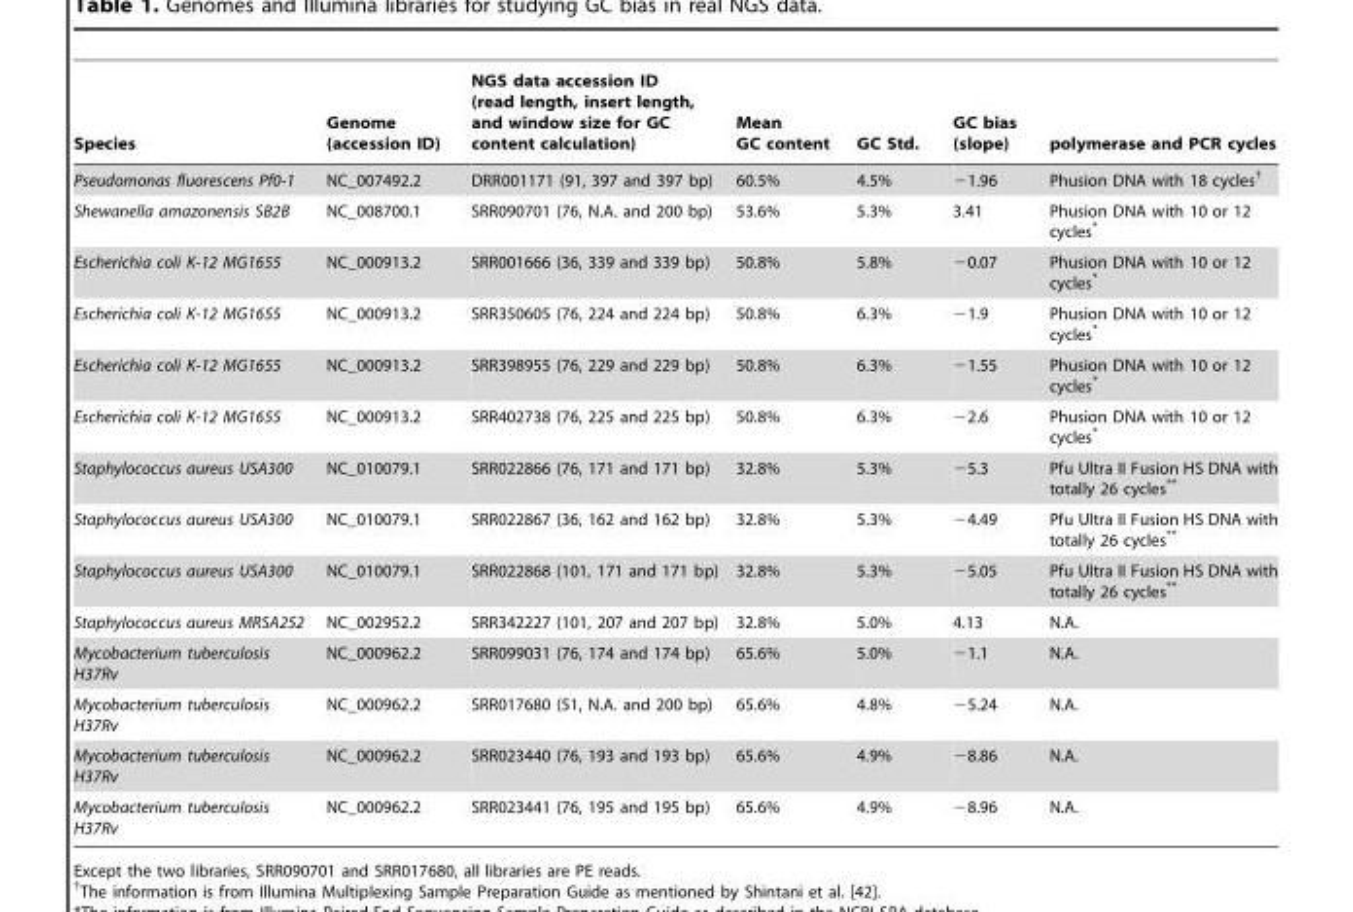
<table><thead><tr><td>Species</td><td>Genome (accession ID)</td><td>NGS data accession ID (read length, insert length, and window size for GC content calculation)</td><td>Mean GC content</td><td>GC Std.</td><td>GC bias (slope)</td><td>polymerase and PCR cycles</td></tr></thead><tbody><tr><td>Pseudomonas fluorescens Pf0-1</td><td>NC_007492.2</td><td>DRR001171 (91, 397 and 397 bp)</td><td>60.5%</td><td>4.5%</td><td>−1.96</td><td>Phusion DNA with 18 cycles†</td></tr><tr><td>Shewanella amazonensis SB2B</td><td>NC_008700.1</td><td>SRR090701 (76, N.A. and 200 bp)</td><td>53.6%</td><td>5.3%</td><td>3.41</td><td>Phusion DNA with 10 or 12 cycles*</td></tr><tr><td>Escherichia coli K-12 MG1655</td><td>NC_000913.2</td><td>SRR001666 (36, 339 and 339 bp)</td><td>50.8%</td><td>5.8%</td><td>−0.07</td><td>Phusion DNA with 10 or 12 cycles*</td></tr><tr><td>Escherichia coli K-12 MG1655</td><td>NC_000913.2</td><td>SRR350605 (76, 224 and 224 bp)</td><td>50.8%</td><td>6.3%</td><td>−1.9</td><td>Phusion DNA with 10 or 12 cycles*</td></tr><tr><td>Escherichia coli K-12 MG1655</td><td>NC_000913.2</td><td>SRR398955 (76, 229 and 229 bp)</td><td>50.8%</td><td>6.3%</td><td>−1.55</td><td>Phusion DNA with 10 or 12 cycles*</td></tr><tr><td>Escherichia coli K-12 MG1655</td><td>NC_000913.2</td><td>SRR402738 (76, 225 and 225 bp)</td><td>50.8%</td><td>6.3%</td><td>−2.6</td><td>Phusion DNA with 10 or 12 cycles*</td></tr><tr><td>Staphylococcus aureus USA300</td><td>NC_010079.1</td><td>SRR022866 (76, 171 and 171 bp)</td><td>32.8%</td><td>5.3%</td><td>−5.3</td><td>Pfu Ultra II Fusion HS DNA with totally 26 cycles**</td></tr><tr><td>Staphylococcus aureus USA300</td><td>NC_010079.1</td><td>SRR022867 (36, 162 and 162 bp)</td><td>32.8%</td><td>5.3%</td><td>−4.49</td><td>Pfu Ultra II Fusion HS DNA with totally 26 cycles**</td></tr><tr><td>Staphylococcus aureus USA300</td><td>NC_010079.1</td><td>SRR022868 (101, 171 and 171 bp)</td><td>32.8%</td><td>5.3%</td><td>−5.05</td><td>Pfu Ultra II Fusion HS DNA with totally 26 cycles**</td></tr><tr><td>Staphylococcus aureus MRSA252</td><td>NC_002952.2</td><td>SRR342227 (101, 207 and 207 bp)</td><td>32.8%</td><td>5.0%</td><td>4.13</td><td>N.A.</td></tr><tr><td>Mycobacterium tuberculosis H37Rv</td><td>NC_000962.2</td><td>SRR099031 (76, 174 and 174 bp)</td><td>65.6%</td><td>5.0%</td><td>−1.1</td><td>N.A.</td></tr><tr><td>Mycobacterium tuberculosis H37Rv</td><td>NC_000962.2</td><td>SRR017680 (51, N.A. and 200 bp)</td><td>65.6%</td><td>4.8%</td><td>−5.24</td><td>N.A.</td></tr><tr><td>Mycobacterium tuberculosis H37Rv</td><td>NC_000962.2</td><td>SRR023440 (76, 193 and 193 bp)</td><td>65.6%</td><td>4.9%</td><td>−8.86</td><td>N.A.</td></tr><tr><td>Mycobacterium tuberculosis H37Rv</td><td>NC_000962.2</td><td>SRR023441 (76, 195 and 195 bp)</td><td>65.6%</td><td>4.9%</td><td>−8.96</td><td>N.A.</td></tr></tbody></table>